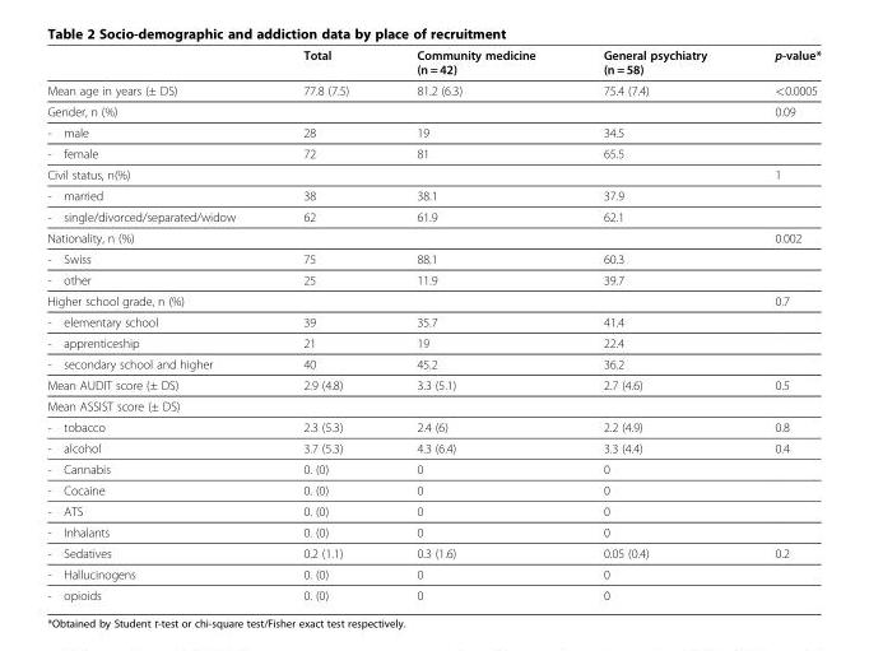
<table><thead><tr><td></td><td>Total</td><td>Community medicine (n = 42)</td><td>General psychiatry (n = 58)</td><td>p-value*</td></tr></thead><tbody><tr><td>Mean age in years (± DS)</td><td>77.8 (7.5)</td><td>81.2 (6.3)</td><td>75.4 (7.4)</td><td>&lt;0.0005</td></tr><tr><td>Gender, n (%)</td><td></td><td></td><td></td><td>0.09</td></tr><tr><td>- male</td><td>28</td><td>19</td><td>34.5</td><td></td></tr><tr><td>- female</td><td>72</td><td>81</td><td>65.5</td><td></td></tr><tr><td>Civil status, n(%)</td><td></td><td></td><td></td><td>1</td></tr><tr><td>- married</td><td>38</td><td>38.1</td><td>37.9</td><td></td></tr><tr><td>- single/divorced/separated/widow</td><td>62</td><td>61.9</td><td>62.1</td><td></td></tr><tr><td>Nationality, n (%)</td><td></td><td></td><td></td><td>0.002</td></tr><tr><td>- Swiss</td><td>75</td><td>88.1</td><td>60.3</td><td></td></tr><tr><td>- other</td><td>25</td><td>11.9</td><td>39.7</td><td></td></tr><tr><td>Higher school grade, n (%)</td><td></td><td></td><td></td><td>0.7</td></tr><tr><td>- elementary school</td><td>39</td><td>35.7</td><td>41.4</td><td></td></tr><tr><td>- apprenticeship</td><td>21</td><td>19</td><td>22.4</td><td></td></tr><tr><td>- secondary school and higher</td><td>40</td><td>45.2</td><td>36.2</td><td></td></tr><tr><td>Mean AUDIT score (± DS)</td><td>2.9 (4.8)</td><td>3.3 (5.1)</td><td>2.7 (4.6)</td><td>0.5</td></tr><tr><td colspan="5">Mean ASSIST score (± DS)</td></tr><tr><td>- tobacco</td><td>2.3 (5.3)</td><td>2.4 (6)</td><td>2.2 (4.9)</td><td>0.8</td></tr><tr><td>- alcohol</td><td>3.7 (5.3)</td><td>4.3 (6.4)</td><td>3.3 (4.4)</td><td>0.4</td></tr><tr><td>- Cannabis</td><td>0. (0)</td><td>0</td><td>0</td><td></td></tr><tr><td>- Cocaine</td><td>0. (0)</td><td>0</td><td>0</td><td></td></tr><tr><td>- ATS</td><td>0. (0)</td><td>0</td><td>0</td><td></td></tr><tr><td>- Inhalants</td><td>0. (0)</td><td>0</td><td>0</td><td></td></tr><tr><td>- Sedatives</td><td>0.2 (1.1)</td><td>0.3 (1.6)</td><td>0.05 (0.4)</td><td>0.2</td></tr><tr><td>- Hallucinogens</td><td>0. (0)</td><td>0</td><td>0</td><td></td></tr><tr><td>- opioids</td><td>0. (0)</td><td>0</td><td>0</td><td></td></tr></tbody></table>